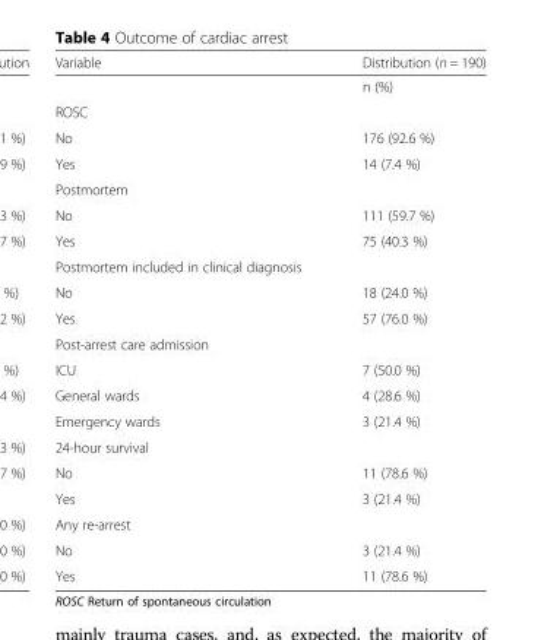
<table><thead><tr><td>Variable</td><td>Distribution (n = 190)</td></tr></thead><tbody><tr><td></td><td>n (%)</td></tr><tr><td colspan="2">ROSC</td></tr><tr><td>No</td><td>176 (92.6 %)</td></tr><tr><td>Yes</td><td>14 (7.4 %)</td></tr><tr><td colspan="2">Postmortem</td></tr><tr><td>No</td><td>111 (59.7 %)</td></tr><tr><td>Yes</td><td>75 (40.3 %)</td></tr><tr><td colspan="2">Postmortem included in clinical diagnosis</td></tr><tr><td>No</td><td>18 (24.0 %)</td></tr><tr><td>Yes</td><td>57 (76.0 %)</td></tr><tr><td colspan="2">Post-arrest care admission</td></tr><tr><td>ICU</td><td>7 (50.0 %)</td></tr><tr><td>General wards</td><td>4 (28.6 %)</td></tr><tr><td>Emergency wards</td><td>3 (21.4 %)</td></tr><tr><td colspan="2">24-hour survival</td></tr><tr><td>No</td><td>11 (78.6 %)</td></tr><tr><td>Yes</td><td>3 (21.4 %)</td></tr><tr><td colspan="2">Any re-arrest</td></tr><tr><td>No</td><td>3 (21.4 %)</td></tr><tr><td>Yes</td><td>11 (78.6 %)</td></tr></tbody></table>